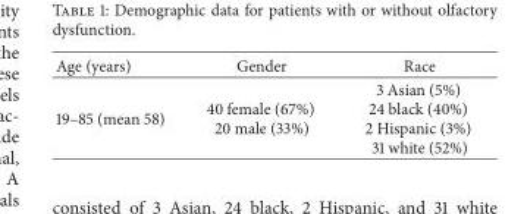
<table><thead><tr><td>Age (years)</td><td>Gender</td><td>Race</td></tr></thead><tbody><tr><td>19–85 (mean 58)</td><td>40 female (67%) 20 male (33%)</td><td>3 Asian (5%) 24 black (40%) 2 Hispanic (3%) 31 white (52%)</td></tr></tbody></table>